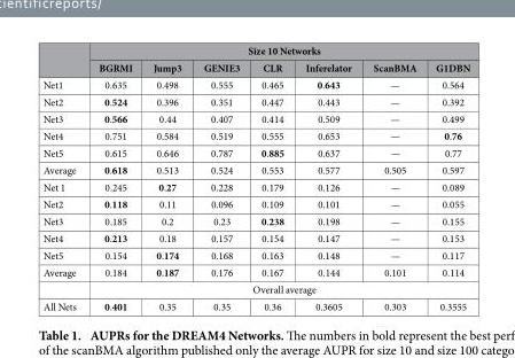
<table><thead><tr><td rowspan="2"></td><td colspan="7">Size 10 Networks</td></tr><tr><td>BGRMI</td><td>Jump3</td><td>GENIE3</td><td>CLR</td><td>Inferelator</td><td>ScanBMA</td><td>G1DBN</td></tr></thead><tbody><tr><td>Net1</td><td>0.635</td><td>0.498</td><td>0.555</td><td>0.465</td><td>0.643</td><td>—</td><td>0.564</td></tr><tr><td>Net2</td><td>0.524</td><td>0.396</td><td>0.351</td><td>0.447</td><td>0.443</td><td>—</td><td>0.392</td></tr><tr><td>Net3</td><td>0.566</td><td>0.44</td><td>0.407</td><td>0.414</td><td>0.509</td><td>—</td><td>0.499</td></tr><tr><td>Net4</td><td>0.751</td><td>0.584</td><td>0.519</td><td>0.555</td><td>0.653</td><td>—</td><td>0.76</td></tr><tr><td>Net5</td><td>0.615</td><td>0.646</td><td>0.787</td><td>0.885</td><td>0.637</td><td>—</td><td>0.77</td></tr><tr><td>Average</td><td>0.618</td><td>0.513</td><td>0.524</td><td>0.553</td><td>0.577</td><td>0.505</td><td>0.597</td></tr><tr><td>Net 1</td><td>0.245</td><td>0.27</td><td>0.228</td><td>0.179</td><td>0.126</td><td>—</td><td>0.089</td></tr><tr><td>Net2</td><td>0.118</td><td>0.11</td><td>0.096</td><td>0.109</td><td>0.101</td><td>—</td><td>0.055</td></tr><tr><td>Net3</td><td>0.185</td><td>0.2</td><td>0.23</td><td>0.238</td><td>0.198</td><td>—</td><td>0.155</td></tr><tr><td>Net4</td><td>0.213</td><td>0.18</td><td>0.157</td><td>0.154</td><td>0.147</td><td>—</td><td>0.153</td></tr><tr><td>Net5</td><td>0.154</td><td>0.174</td><td>0.168</td><td>0.163</td><td>0.148</td><td>—</td><td>0.117</td></tr><tr><td rowspan="2">Average</td><td>0.184</td><td>0.187</td><td>0.176</td><td>0.167</td><td>0.144</td><td>0.101</td><td>0.114</td></tr><tr><td colspan="7">Overall average</td></tr><tr><td>All Nets</td><td>0.401</td><td>0.35</td><td>0.35</td><td>0.36</td><td>0.3605</td><td>0.303</td><td>0.3555</td></tr></tbody></table>